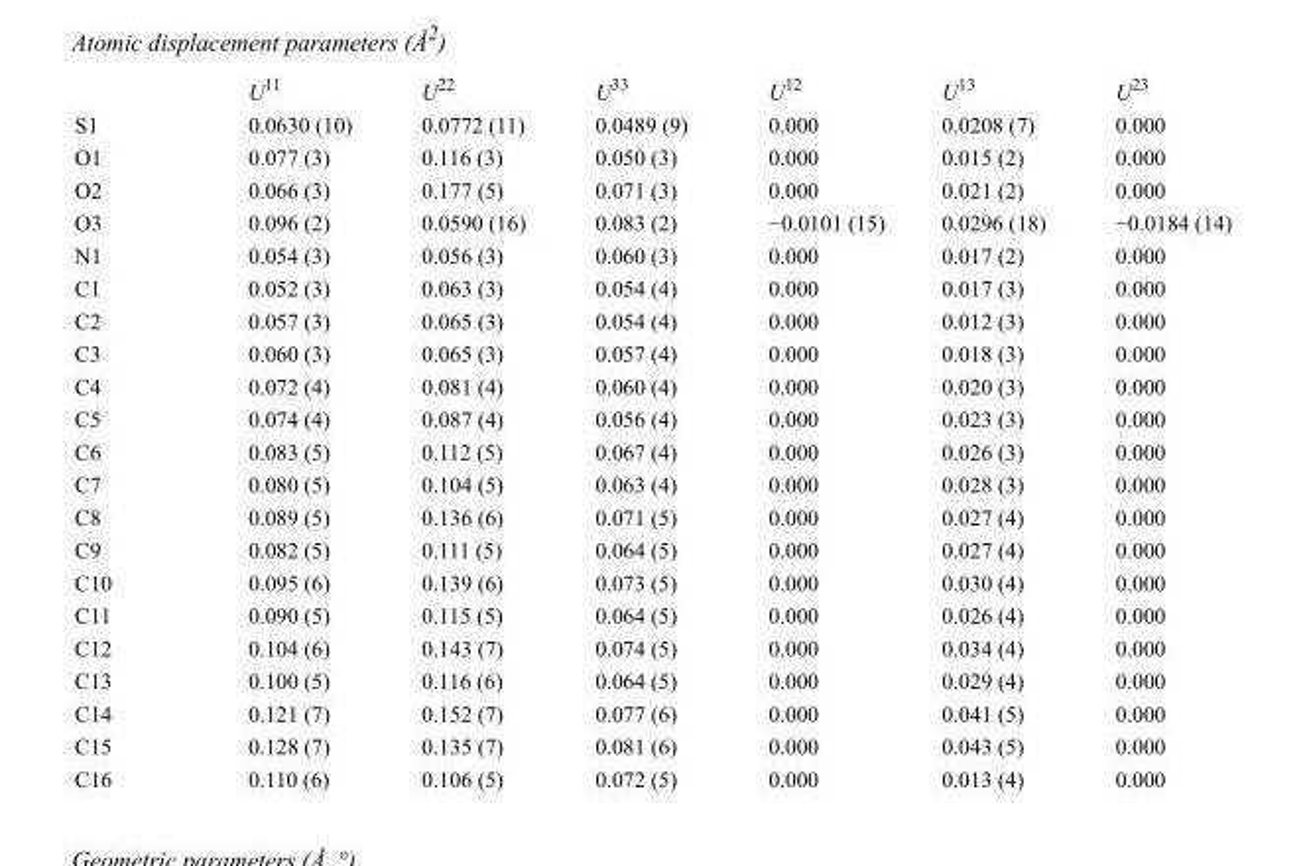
<table><thead><tr><td></td><td>U<sup>11</sup></td><td>U<sup>22</sup></td><td>U<sup>33</sup></td><td>U<sup>12</sup></td><td>U<sup>13</sup></td><td>U<sup>23</sup></td></tr></thead><tbody><tr><td>S1</td><td>0.0630 (10)</td><td>0.0772 (11)</td><td>0.0489 (9)</td><td>0.000</td><td>0.0208 (7)</td><td>0.000</td></tr><tr><td>O1</td><td>0.077 (3)</td><td>0.116 (3)</td><td>0.050 (3)</td><td>0.000</td><td>0.015 (2)</td><td>0.000</td></tr><tr><td>O2</td><td>0.066 (3)</td><td>0.177 (5)</td><td>0.071 (3)</td><td>0.000</td><td>0.021 (2)</td><td>0.000</td></tr><tr><td>O3</td><td>0.096 (2)</td><td>0.0590 (16)</td><td>0.083 (2)</td><td>−0.0101 (15)</td><td>0.0296 (18)</td><td>−0.0184 (14)</td></tr><tr><td>N1</td><td>0.054 (3)</td><td>0.056 (3)</td><td>0.060 (3)</td><td>0.000</td><td>0.017 (2)</td><td>0.000</td></tr><tr><td>C1</td><td>0.052 (3)</td><td>0.063 (3)</td><td>0.054 (4)</td><td>0.000</td><td>0.017 (3)</td><td>0.000</td></tr><tr><td>C2</td><td>0.057 (3)</td><td>0.065 (3)</td><td>0.054 (4)</td><td>0.000</td><td>0.012 (3)</td><td>0.000</td></tr><tr><td>C3</td><td>0.060 (3)</td><td>0.065 (3)</td><td>0.057 (4)</td><td>0.000</td><td>0.018 (3)</td><td>0.000</td></tr><tr><td>C4</td><td>0.072 (4)</td><td>0.081 (4)</td><td>0.060 (4)</td><td>0.000</td><td>0.020 (3)</td><td>0.000</td></tr><tr><td>C5</td><td>0.074 (4)</td><td>0.087 (4)</td><td>0.056 (4)</td><td>0.000</td><td>0.023 (3)</td><td>0.000</td></tr><tr><td>C6</td><td>0.083 (5)</td><td>0.112 (5)</td><td>0.067 (4)</td><td>0.000</td><td>0.026 (3)</td><td>0.000</td></tr><tr><td>C7</td><td>0.080 (5)</td><td>0.104 (5)</td><td>0.063 (4)</td><td>0.000</td><td>0.028 (3)</td><td>0.000</td></tr><tr><td>C8</td><td>0.089 (5)</td><td>0.136 (6)</td><td>0.071 (5)</td><td>0.000</td><td>0.027 (4)</td><td>0.000</td></tr><tr><td>C9</td><td>0.082 (5)</td><td>0.111 (5)</td><td>0.064 (5)</td><td>0.000</td><td>0.027 (4)</td><td>0.000</td></tr><tr><td>C10</td><td>0.095 (6)</td><td>0.139 (6)</td><td>0.073 (5)</td><td>0.000</td><td>0.030 (4)</td><td>0.000</td></tr><tr><td>C11</td><td>0.090 (5)</td><td>0.115 (5)</td><td>0.064 (5)</td><td>0.000</td><td>0.026 (4)</td><td>0.000</td></tr><tr><td>C12</td><td>0.104 (6)</td><td>0.143 (7)</td><td>0.074 (5)</td><td>0.000</td><td>0.034 (4)</td><td>0.000</td></tr><tr><td>C13</td><td>0.100 (5)</td><td>0.116 (6)</td><td>0.064 (5)</td><td>0.000</td><td>0.029 (4)</td><td>0.000</td></tr><tr><td>C14</td><td>0.121 (7)</td><td>0.152 (7)</td><td>0.077 (6)</td><td>0.000</td><td>0.041 (5)</td><td>0.000</td></tr><tr><td>C15</td><td>0.128 (7)</td><td>0.135 (7)</td><td>0.081 (6)</td><td>0.000</td><td>0.043 (5)</td><td>0.000</td></tr><tr><td>C16</td><td>0.110 (6)</td><td>0.106 (5)</td><td>0.072 (5)</td><td>0.000</td><td>0.013 (4)</td><td>0.000</td></tr></tbody></table>